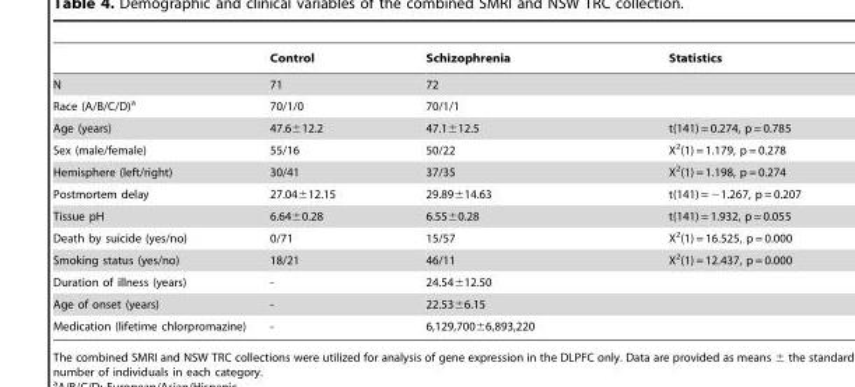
<table><thead><tr><td></td><td>Control</td><td>Schizophrenia</td><td>Statistics</td></tr></thead><tbody><tr><td>N</td><td>71</td><td>72</td><td></td></tr><tr><td>Race (A/B/C/D)<sup>a</sup></td><td>70/1/0</td><td>70/1/1</td><td></td></tr><tr><td>Age (years)</td><td>47.6±12.2</td><td>47.1±12.5</td><td>t(141) = 0.274, p = 0.785</td></tr><tr><td>Sex (male/female)</td><td>55/16</td><td>50/22</td><td>X<sup>2</sup>(1) = 1.179, p = 0.278</td></tr><tr><td>Hemisphere (left/right)</td><td>30/41</td><td>37/35</td><td>X<sup>2</sup>(1) = 1.198, p = 0.274</td></tr><tr><td>Postmortem delay</td><td>27.04±12.15</td><td>29.89±14.63</td><td>t(141) = −1.267, p = 0.207</td></tr><tr><td>Tissue pH</td><td>6.64±0.28</td><td>6.55±0.28</td><td>t(141) = 1.932, p = 0.055</td></tr><tr><td>Death by suicide (yes/no)</td><td>0/71</td><td>15/57</td><td>X<sup>2</sup>(1) = 16.525, p = 0.000</td></tr><tr><td>Smoking status (yes/no)</td><td>18/21</td><td>46/11</td><td>X<sup>2</sup>(1) = 12.437, p = 0.000</td></tr><tr><td>Duration of illness (years)</td><td>-</td><td>24.54±12.50</td><td></td></tr><tr><td>Age of onset (years)</td><td>-</td><td>22.53±6.15</td><td></td></tr><tr><td>Medication (lifetime chlorpromazine)</td><td>-</td><td>6,129,700±6,893,220</td><td></td></tr></tbody></table>